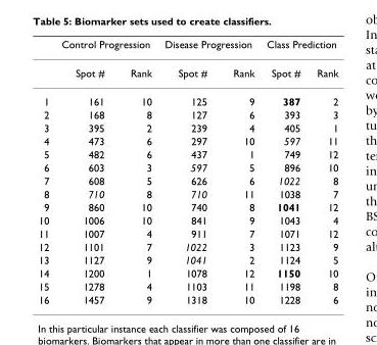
<table><thead><tr><td rowspan="2"></td><td colspan="2">Control Progression</td><td colspan="2">Disease Progression</td><td colspan="2">Class Prediction</td></tr><tr><td>Spot #</td><td>Rank</td><td>Spot #</td><td>Rank</td><td>Spot #</td><td>Rank</td></tr></thead><tbody><tr><td>1</td><td>161</td><td>10</td><td>125</td><td>9</td><td>387</td><td>2</td></tr><tr><td>2</td><td>168</td><td>8</td><td>127</td><td>6</td><td>393</td><td>3</td></tr><tr><td>3</td><td>395</td><td>2</td><td>239</td><td>4</td><td>405</td><td>1</td></tr><tr><td>4</td><td>473</td><td>6</td><td>297</td><td>10</td><td>597</td><td>11</td></tr><tr><td>5</td><td>482</td><td>6</td><td>437</td><td>1</td><td>749</td><td>12</td></tr><tr><td>6</td><td>603</td><td>3</td><td>597</td><td>5</td><td>896</td><td>10</td></tr><tr><td>7</td><td>608</td><td>5</td><td>626</td><td>6</td><td>1022</td><td>8</td></tr><tr><td>8</td><td>710</td><td>8</td><td>710</td><td>11</td><td>1038</td><td>7</td></tr><tr><td>9</td><td>860</td><td>10</td><td>740</td><td>8</td><td>1041</td><td>12</td></tr><tr><td>10</td><td>1006</td><td>10</td><td>841</td><td>9</td><td>1043</td><td>4</td></tr><tr><td>11</td><td>1007</td><td>4</td><td>911</td><td>7</td><td>1071</td><td>12</td></tr><tr><td>12</td><td>1101</td><td>7</td><td>1022</td><td>3</td><td>1123</td><td>9</td></tr><tr><td>13</td><td>1127</td><td>9</td><td>1041</td><td>2</td><td>1124</td><td>5</td></tr><tr><td>14</td><td>1200</td><td>1</td><td>1078</td><td>12</td><td>1150</td><td>10</td></tr><tr><td>15</td><td>1278</td><td>4</td><td>1103</td><td>11</td><td>1198</td><td>8</td></tr><tr><td>16</td><td>1457</td><td>9</td><td>1318</td><td>10</td><td>1228</td><td>6</td></tr></tbody></table>